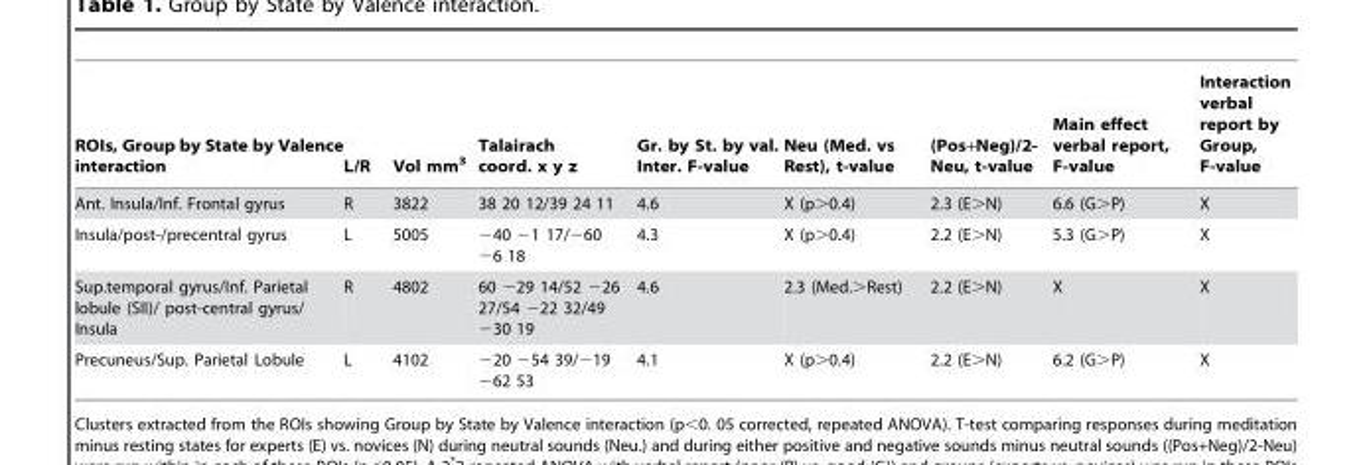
<table><thead><tr><td>ROIs, Group by State by Valence interaction</td><td>L/R</td><td>Vol mm<sup>3</sup></td><td>Talairach coord. x y z</td><td>Gr. by St. by val. Inter. F-value</td><td>Neu (Med. vs Rest), t-value</td><td>(Pos+Neg)/2- Neu, t-value</td><td>Main effect verbal report, F-value</td><td>Interaction verbal report by Group, F-value</td></tr></thead><tbody><tr><td>Ant. Insula/Inf. Frontal gyrus</td><td>R</td><td>3822</td><td>38 20 12/39 24 11</td><td>4.6</td><td>X (p&gt;0.4)</td><td>2.3 (E&gt;N)</td><td>6.6 (G&gt;P)</td><td>X</td></tr><tr><td>Insula/post-/precentral gyrus</td><td>L</td><td>5005</td><td>−40 −1 17/−60 −6 18</td><td>4.3</td><td>X (p&gt;0.4)</td><td>2.2 (E&gt;N)</td><td>5.3 (G&gt;P)</td><td>X</td></tr><tr><td>Sup.temporal gyrus/Inf. Parietal lobule (SII)/ post-central gyrus/ Insula</td><td>R</td><td>4802</td><td>60 −29 14/52 −26 27/54 −22 32/49 −30 19</td><td>4.6</td><td>2.3 (Med.&gt;Rest)</td><td>2.2 (E&gt;N)</td><td>X</td><td>X</td></tr><tr><td>Precuneus/Sup. Parietal Lobule</td><td>L</td><td>4102</td><td>−20 −54 39/−19 −62 53</td><td>4.1</td><td>X (p&gt;0.4)</td><td>2.2 (E&gt;N)</td><td>6.2 (G&gt;P)</td><td>X</td></tr></tbody></table>